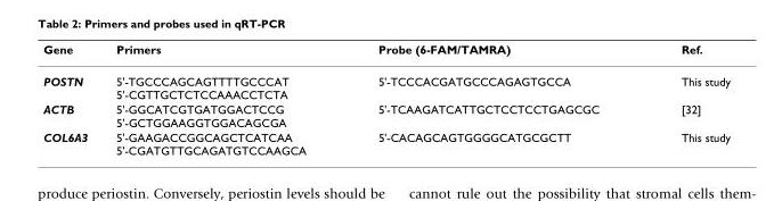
<table><thead><tr><td>Gene</td><td>Primers</td><td>Probe (6-FAM/TAMRA)</td><td>Ref.</td></tr></thead><tbody><tr><td>POSTN</td><td>5&#x27;-TGCCCAGCAGTTTTGCCCAT 5&#x27;-CGTTGCTCTCCAAACCTCTA</td><td>5&#x27;-TCCCACGATGCCCAGAGTGCCA</td><td>This study</td></tr><tr><td>ACTB</td><td>5&#x27;-GGCATCGTGATGGACTCCG 5&#x27;-GCTGGAAGGTGGACAGCGA</td><td>5&#x27;-TCAAGATCATTGCTCCTCCTGAGCGC</td><td>[32]</td></tr><tr><td>COL6A3</td><td>5&#x27;-GAAGACCGGCAGCTCATCAA 5&#x27;-CGATGTTGCAGATGTCCAAGCA</td><td>5&#x27;-CACAGCAGTGGGGCATGCGCTT</td><td>This study</td></tr></tbody></table>